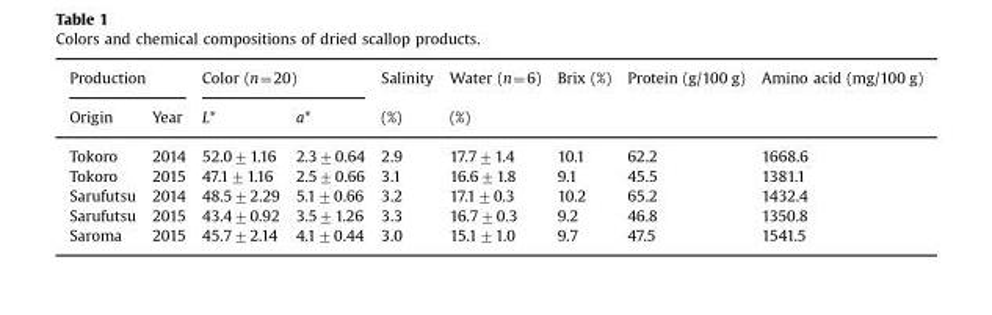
<table><thead><tr><td colspan="2">Production</td><td colspan="2">Color (n=20)</td><td rowspan="2">Salinity (%)</td><td rowspan="2">Water (n=6) (%)</td><td rowspan="2">Brix (%)</td><td rowspan="2">Protein (g/100 g)</td><td rowspan="2">Amino acid (mg/100 g)</td></tr><tr><td>Origin</td><td>Year</td><td>L*</td><td>a*</td></tr></thead><tbody><tr><td>Tokoro</td><td>2014</td><td>52.0±1.16</td><td>2.3±0.64</td><td>2.9</td><td>17.7±1.4</td><td>10.1</td><td>62.2</td><td>1668.6</td></tr><tr><td>Tokoro</td><td>2015</td><td>47.1±1.16</td><td>2.5±0.66</td><td>3.1</td><td>16.6±1.8</td><td>9.1</td><td>45.5</td><td>1381.1</td></tr><tr><td>Sarufutsu</td><td>2014</td><td>48.5±2.29</td><td>5.1±0.66</td><td>3.2</td><td>17.1±0.3</td><td>10.2</td><td>65.2</td><td>1432.4</td></tr><tr><td>Sarufutsu</td><td>2015</td><td>43.4±0.92</td><td>3.5±1.26</td><td>3.3</td><td>16.7±0.3</td><td>9.2</td><td>46.8</td><td>1350.8</td></tr><tr><td>Saroma</td><td>2015</td><td>45.7±2.14</td><td>4.1±0.44</td><td>3.0</td><td>15.1±1.0</td><td>9.7</td><td>47.5</td><td>1541.5</td></tr></tbody></table>